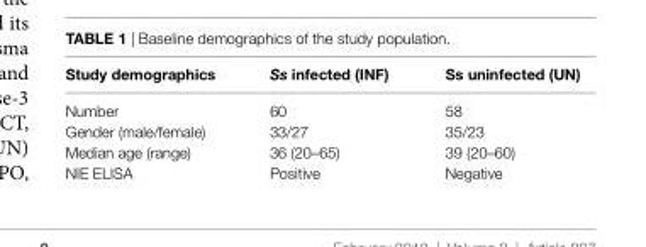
<table><thead><tr><td>study demographics</td><td>Ss infected (inF)</td><td>ss uninfected (Un)</td></tr></thead><tbody><tr><td>Number</td><td>60</td><td>58</td></tr><tr><td>Gender (male/female)</td><td>33/27</td><td>35/23</td></tr><tr><td>Median age (range)</td><td>36 (20–65)</td><td>39 (20–60)</td></tr><tr><td>NIE ELISA</td><td>Positive</td><td>Negative</td></tr></tbody></table>